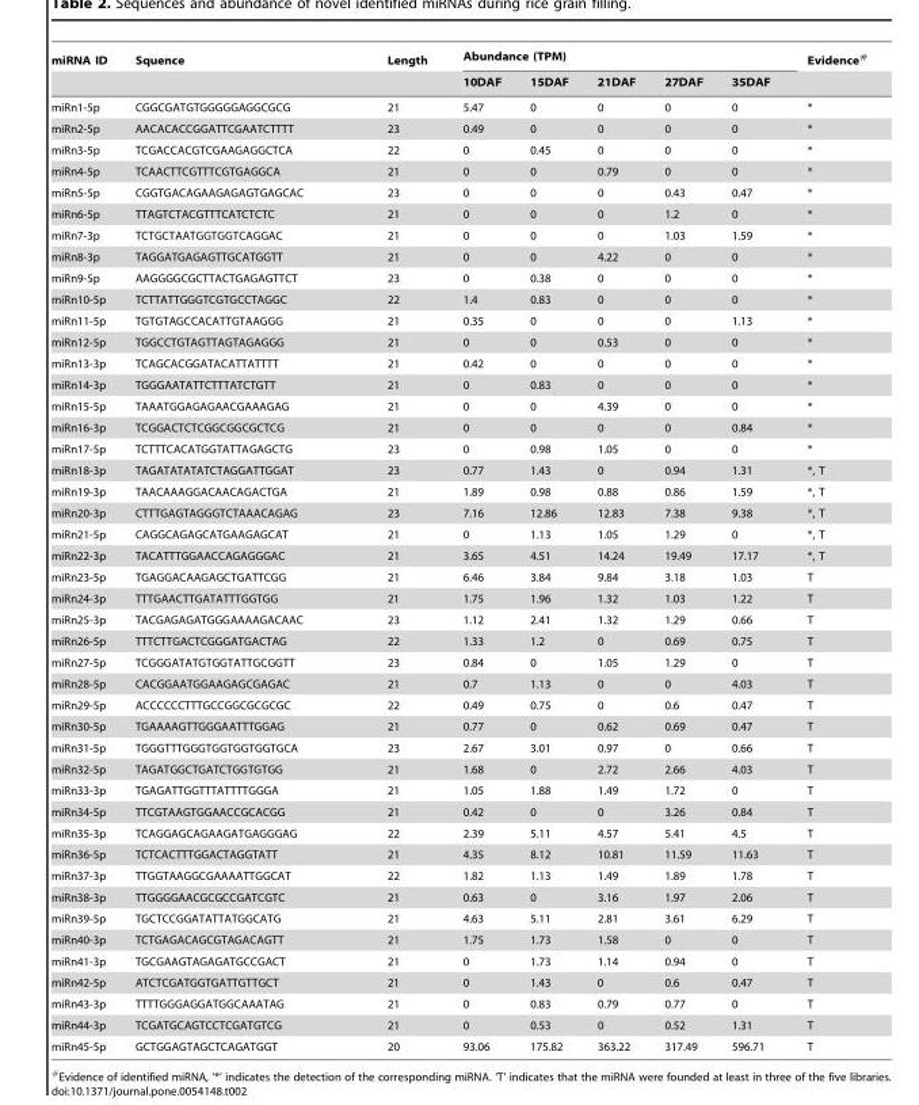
<table><thead><tr><td rowspan="2">miRNA ID</td><td rowspan="2">Squence</td><td rowspan="2">Length</td><td colspan="5">Abundance (TPM)</td><td rowspan="2">Evidence#</td></tr><tr><td>10DAF</td><td>15DAF</td><td>21DAF</td><td>27DAF</td><td>35DAF</td></tr></thead><tbody><tr><td>miRn1-5p</td><td>CGGCGATGTGGGGGAGGCGCG</td><td>21</td><td>5.47</td><td>0</td><td>0</td><td>0</td><td>0</td><td>*</td></tr><tr><td>miRn2-5p</td><td>AACACACCGGATTCGAATCTTTT</td><td>23</td><td>0.49</td><td>0</td><td>0</td><td>0</td><td>0</td><td>*</td></tr><tr><td>miRn3-5p</td><td>TCGACCACGTCGAAGAGGCTCA</td><td>22</td><td>0</td><td>0.45</td><td>0</td><td>0</td><td>0</td><td>*</td></tr><tr><td>miRn4-5p</td><td>TCAACTTCGTTTCGTGAGGCA</td><td>21</td><td>0</td><td>0</td><td>0.79</td><td>0</td><td>0</td><td>*</td></tr><tr><td>miRn5-5p</td><td>CGGTGACAGAAGAGAGTGAGCAC</td><td>23</td><td>0</td><td>0</td><td>0</td><td>0.43</td><td>0.47</td><td>*</td></tr><tr><td>miRn6-5p</td><td>TTAGTCTACGTTTCATCTCTC</td><td>21</td><td>0</td><td>0</td><td>0</td><td>1.2</td><td>0</td><td>*</td></tr><tr><td>miRn7-3p</td><td>TCTGCTAATGGTGGTCAGGAC</td><td>21</td><td>0</td><td>0</td><td>0</td><td>1.03</td><td>1.59</td><td>*</td></tr><tr><td>miRn8-3p</td><td>TAGGATGAGAGTTGCATGGTT</td><td>21</td><td>0</td><td>0</td><td>4.22</td><td>0</td><td>0</td><td>*</td></tr><tr><td>miRn9-5p</td><td>AAGGGGCGCTTACTGAGAGTTCT</td><td>23</td><td>0</td><td>0.38</td><td>0</td><td>0</td><td>0</td><td>*</td></tr><tr><td>miRn10-5p</td><td>TCTTATTGGGTCGTGCCTAGGC</td><td>22</td><td>1.4</td><td>0.83</td><td>0</td><td>0</td><td>0</td><td>*</td></tr><tr><td>miRn11-5p</td><td>TGTGTAGCCACATTGTAAGGG</td><td>21</td><td>0.35</td><td>0</td><td>0</td><td>0</td><td>1.13</td><td>*</td></tr><tr><td>miRn12-5p</td><td>TGGCCTGTAGTTAGTAGAGGG</td><td>21</td><td>0</td><td>0</td><td>0.53</td><td>0</td><td>0</td><td>*</td></tr><tr><td>miRn13-3p</td><td>TCAGCACGGATACATTATTTT</td><td>21</td><td>0.42</td><td>0</td><td>0</td><td>0</td><td>0</td><td>*</td></tr><tr><td>miRn14-3p</td><td>TGGGAATATTCTTTATCTGTT</td><td>21</td><td>0</td><td>0.83</td><td>0</td><td>0</td><td>0</td><td>*</td></tr><tr><td>miRn15-5p</td><td>TAAATGGAGAGAACGAAAGAG</td><td>21</td><td>0</td><td>0</td><td>4.39</td><td>0</td><td>0</td><td>*</td></tr><tr><td>miRn16-3p</td><td>TCGGACTCTCGGCGGCGCTCG</td><td>21</td><td>0</td><td>0</td><td>0</td><td>0</td><td>0.84</td><td>*</td></tr><tr><td>miRn17-5p</td><td>TCTTTCACATGGTATTAGAGCTG</td><td>23</td><td>0</td><td>0.98</td><td>1.05</td><td>0</td><td>0</td><td>*</td></tr><tr><td>miRn18-3p</td><td>TAGATATATATCTAGGATTGGAT</td><td>23</td><td>0.77</td><td>1.43</td><td>0</td><td>0.94</td><td>1.31</td><td>*, T</td></tr><tr><td>miRn19-3p</td><td>TAACAAAGGACAACAGACTGA</td><td>21</td><td>1.89</td><td>0.98</td><td>0.88</td><td>0.86</td><td>1.59</td><td>*, T</td></tr><tr><td>miRn20-3p</td><td>CTTTGAGTAGGGTCTAAACAGAG</td><td>23</td><td>7.16</td><td>12.86</td><td>12.83</td><td>7.38</td><td>9.38</td><td>*, T</td></tr><tr><td>miRn21-5p</td><td>CAGGCAGAGCATGAAGAGCAT</td><td>21</td><td>0</td><td>1.13</td><td>1.05</td><td>1.29</td><td>0</td><td>*, T</td></tr><tr><td>miRn22-3p</td><td>TACATTTGGAACCAGAGGGAC</td><td>21</td><td>3.65</td><td>4.51</td><td>14.24</td><td>19.49</td><td>17.17</td><td>*, T</td></tr><tr><td>miRn23-5p</td><td>TGAGGACAAGAGCTGATTCGG</td><td>21</td><td>6.46</td><td>3.84</td><td>9.84</td><td>3.18</td><td>1.03</td><td>T</td></tr><tr><td>miRn24-3p</td><td>TTTGAACTTGATATTTGGTGG</td><td>21</td><td>1.75</td><td>1.96</td><td>1.32</td><td>1.03</td><td>1.22</td><td>T</td></tr><tr><td>miRn25-3p</td><td>TACGAGAGATGGGAAAAGACAAC</td><td>23</td><td>1.12</td><td>2.41</td><td>1.32</td><td>1.29</td><td>0.66</td><td>T</td></tr><tr><td>miRn26-5p</td><td>TTTCTTGACTCGGGATGACTAG</td><td>22</td><td>1.33</td><td>1.2</td><td>0</td><td>0.69</td><td>0.75</td><td>T</td></tr><tr><td>miRn27-5p</td><td>TCGGGATATGTGGTATTGCGGTT</td><td>23</td><td>0.84</td><td>0</td><td>1.05</td><td>1.29</td><td>0</td><td>T</td></tr><tr><td>miRn28-5p</td><td>CACGGAATGGAAGAGCGAGAC</td><td>21</td><td>0.7</td><td>1.13</td><td>0</td><td>0</td><td>4.03</td><td>T</td></tr><tr><td>miRn29-5p</td><td>ACCCCCCTTTGCCGGCGCGCGC</td><td>22</td><td>0.49</td><td>0.75</td><td>0</td><td>0.6</td><td>0.47</td><td>T</td></tr><tr><td>miRn30-5p</td><td>TGAAAAGTTGGGAATTTGGAG</td><td>21</td><td>0.77</td><td>0</td><td>0.62</td><td>0.69</td><td>0.47</td><td>T</td></tr><tr><td>miRn31-5p</td><td>TGGGTTTGGGTGGTGGTGGTGCA</td><td>23</td><td>2.67</td><td>3.01</td><td>0.97</td><td>0</td><td>0.66</td><td>T</td></tr><tr><td>miRn32-5p</td><td>TAGATGGCTGATCTGGTGTGG</td><td>21</td><td>1.68</td><td>0</td><td>2.72</td><td>2.66</td><td>4.03</td><td>T</td></tr><tr><td>miRn33-3p</td><td>TGAGATTGGTTTATTTTGGGA</td><td>21</td><td>1.05</td><td>1.88</td><td>1.49</td><td>1.72</td><td>0</td><td>T</td></tr><tr><td>miRn34-5p</td><td>TTCGTAAGTGGAACCGCACGG</td><td>21</td><td>0.42</td><td>0</td><td>0</td><td>3.26</td><td>0.84</td><td>T</td></tr><tr><td>miRn35-3p</td><td>TCAGGAGCAGAAGATGAGGGAG</td><td>22</td><td>2.39</td><td>5.11</td><td>4.57</td><td>5.41</td><td>4.5</td><td>T</td></tr><tr><td>miRn36-5p</td><td>TCTCACTTTGGACTAGGTATT</td><td>21</td><td>4.35</td><td>8.12</td><td>10.81</td><td>11.59</td><td>11.63</td><td>T</td></tr><tr><td>miRn37-3p</td><td>TTGGTAAGGCGAAAATTGGCAT</td><td>22</td><td>1.82</td><td>1.13</td><td>1.49</td><td>1.89</td><td>1.78</td><td>T</td></tr><tr><td>miRn38-3p</td><td>TTGGGGAACGCGCCGATCGTC</td><td>21</td><td>0.63</td><td>0</td><td>3.16</td><td>1.97</td><td>2.06</td><td>T</td></tr><tr><td>miRn39-5p</td><td>TGCTCCGGATATTATGGCATG</td><td>21</td><td>4.63</td><td>5.11</td><td>2.81</td><td>3.61</td><td>6.29</td><td>T</td></tr><tr><td>miRn40-3p</td><td>TCTGAGACAGCGTAGACAGTT</td><td>21</td><td>1.75</td><td>1.73</td><td>1.58</td><td>0</td><td>0</td><td>T</td></tr><tr><td>miRn41-3p</td><td>TGCGAAGTAGAGATGCCGACT</td><td>21</td><td>0</td><td>1.73</td><td>1.14</td><td>0.94</td><td>0</td><td>T</td></tr><tr><td>miRn42-5p</td><td>ATCTCGATGGTGATTGTTGCT</td><td>21</td><td>0</td><td>1.43</td><td>0</td><td>0.6</td><td>0.47</td><td>T</td></tr><tr><td>miRn43-3p</td><td>TTTTGGGAGGATGGCAAATAG</td><td>21</td><td>0</td><td>0.83</td><td>0.79</td><td>0.77</td><td>0</td><td>T</td></tr><tr><td>miRn44-3p</td><td>TCGATGCAGTCCTCGATGTCG</td><td>21</td><td>0</td><td>0.53</td><td>0</td><td>0.52</td><td>1.31</td><td>T</td></tr><tr><td>miRn45-5p</td><td>GCTGGAGTAGCTCAGATGGT</td><td>20</td><td>93.06</td><td>175.82</td><td>363.22</td><td>317.49</td><td>596.71</td><td>T</td></tr></tbody></table>